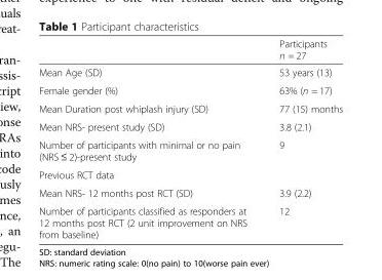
<table><thead><tr><td></td><td>Participants n = 27</td></tr></thead><tbody><tr><td>Mean Age (SD)</td><td>53 years (13)</td></tr><tr><td>Female gender (%)</td><td>63% (n = 17)</td></tr><tr><td>Mean Duration post whiplash injury (SD)</td><td>77 (15) months</td></tr><tr><td>Mean NRS- present study (SD)</td><td>3.8 (2.1)</td></tr><tr><td>Number of participants with minimal or no pain (NRS ≤ 2)-present study</td><td>9</td></tr><tr><td colspan="2">Previous RCT data</td></tr><tr><td>Mean NRS- 12 months post RCT (SD)</td><td>3.9 (2.2)</td></tr><tr><td>Number of participants classified as responders at 12 months post RCT (2 unit improvement on NRS from baseline)</td><td>12</td></tr></tbody></table>